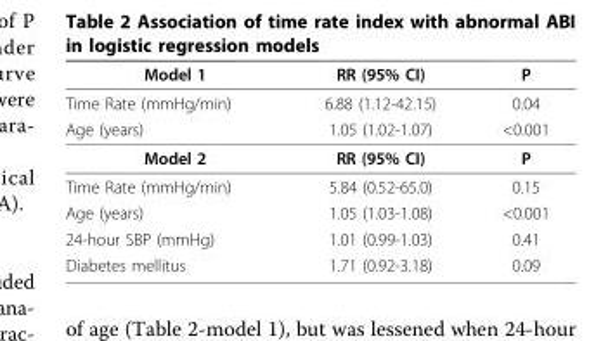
<table><thead><tr><td>Model 1</td><td>RR (95% CI)</td><td>P</td></tr></thead><tbody><tr><td>Time Rate (mmHg/min)</td><td>6.88 (1.12-42.15)</td><td>0.04</td></tr><tr><td>Age (years)</td><td>1.05 (1.02-1.07)</td><td>&lt;0.001</td></tr><tr><td>Model 2</td><td>RR (95% CI)</td><td>P</td></tr><tr><td>Time Rate (mmHg/min)</td><td>5.84 (0.52-65.0)</td><td>0.15</td></tr><tr><td>Age (years)</td><td>1.05 (1.03-1.08)</td><td>&lt;0.001</td></tr><tr><td>24-hour SBP (mmHg)</td><td>1.01 (0.99-1.03)</td><td>0.41</td></tr><tr><td>Diabetes mellitus</td><td>1.71 (0.92-3.18)</td><td>0.09</td></tr></tbody></table>